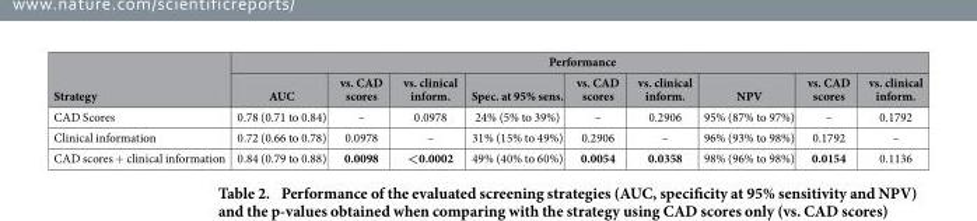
<table><thead><tr><td rowspan="2">Strategy</td><td colspan="9">Performance</td></tr><tr><td>AUC</td><td>vs. CAD scores</td><td>vs. clinical inform.</td><td>Spec. at 95% sens.</td><td>vs. CAD scores</td><td>vs. clinical inform.</td><td>NPV</td><td>vs. CAD scores</td><td>vs. clinical inform.</td></tr></thead><tbody><tr><td>CAD Scores</td><td>0.78 (0.71 to 0.84)</td><td>–</td><td>0.0978</td><td>24% (5% to 39%)</td><td>–</td><td>0.2906</td><td>95% (87% to 97%)</td><td>–</td><td>0.1792</td></tr><tr><td>Clinical information</td><td>0.72 (0.66 to 0.78)</td><td>0.0978</td><td>–</td><td>31% (15% to 49%)</td><td>0.2906</td><td>–</td><td>96% (93% to 98%)</td><td>0.1792</td><td>–</td></tr><tr><td>CAD scores + clinical information</td><td>0.84 (0.79 to 0.88)</td><td>0.0098</td><td>&lt;0.0002</td><td>49% (40% to 60%)</td><td>0.0054</td><td>0.0358</td><td>98% (96% to 98%)</td><td>0.0154</td><td>0.1136</td></tr></tbody></table>